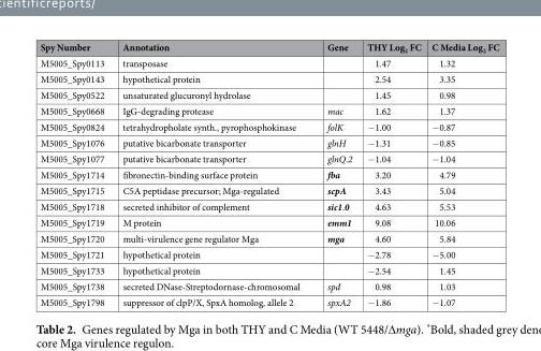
<table><thead><tr><td>Spy Number</td><td>Annotation</td><td>Gene</td><td>THY Log<sub>2</sub> FC</td><td>C Media Log<sub>2</sub> FC</td></tr></thead><tbody><tr><td>M5005_Spy0113</td><td>transposase</td><td></td><td>1.47</td><td>1.32</td></tr><tr><td>M5005_Spy0143</td><td>hypothetical protein</td><td></td><td>2.54</td><td>3.35</td></tr><tr><td>M5005_Spy0522</td><td>unsaturated glucuronyl hydrolase</td><td></td><td>1.45</td><td>0.98</td></tr><tr><td>M5005_Spy0668</td><td>IgG-degrading protease</td><td>mac</td><td>1.62</td><td>1.37</td></tr><tr><td>M5005_Spy0824</td><td>tetrahydropholate synth., pyrophosphokinase</td><td>folK</td><td>−1.00</td><td>−0.87</td></tr><tr><td>M5005_Spy1076</td><td>putative bicarbonate transporter</td><td>glnH</td><td>−1.31</td><td>−0.85</td></tr><tr><td>M5005_Spy1077</td><td>putative bicarbonate transporter</td><td>glnQ.2</td><td>−1.04</td><td>−1.04</td></tr><tr><td>M5005_Spy1714</td><td>fibronectin-binding surface protein</td><td>fba</td><td>3.20</td><td>4.79</td></tr><tr><td>M5005_Spy1715</td><td>C5A peptidase precursor; Mga-regulated</td><td>scpA</td><td>3.43</td><td>5.04</td></tr><tr><td>M5005_Spy1718</td><td>secreted inhibitor of complement</td><td>sic1.0</td><td>4.63</td><td>5.53</td></tr><tr><td>M5005_Spy1719</td><td>M protein</td><td>emm1</td><td>9.08</td><td>10.06</td></tr><tr><td>M5005_Spy1720</td><td>multi-virulence gene regulator Mga</td><td>mga</td><td>4.60</td><td>5.84</td></tr><tr><td>M5005_Spy1721</td><td>hypothetical protein</td><td></td><td>−2.78</td><td>−5.00</td></tr><tr><td>M5005_Spy1733</td><td>hypothetical protein</td><td></td><td>−2.54</td><td>1.45</td></tr><tr><td>M5005_Spy1738</td><td>secreted DNase-Streptodornase-chromosomal</td><td>spd</td><td>0.98</td><td>1.03</td></tr><tr><td>M5005_Spy1798</td><td>suppressor of clpP/X, SpxA homolog, allele 2</td><td>spxA2</td><td>−1.86</td><td>−1.07</td></tr></tbody></table>